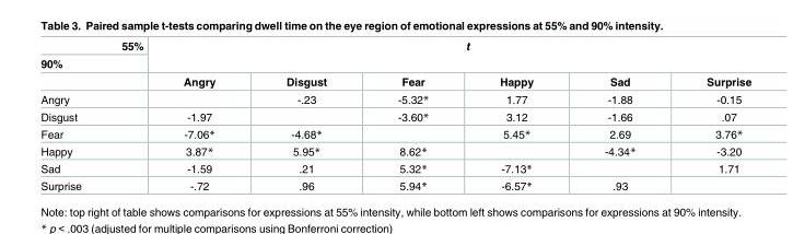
<table><thead><tr><td rowspan="3">55% 90%</td><td rowspan="2" colspan="6">t</td></tr><tr></tr><tr><td>Angry</td><td>Disgust</td><td>Fear</td><td>Happy</td><td>Sad</td><td>Surprise</td></tr></thead><tbody><tr><td>Angry</td><td></td><td>-.23</td><td>-5.32*</td><td>1.77</td><td>-1.88</td><td>-0.15</td></tr><tr><td>Disgust</td><td>-1.97</td><td></td><td>-3.60*</td><td>3.12</td><td>-1.66</td><td>.07</td></tr><tr><td>Fear</td><td>-7.06*</td><td>-4.68*</td><td></td><td>5.45*</td><td>2.69</td><td>3.76*</td></tr><tr><td>Happy</td><td>3.87*</td><td>5.95*</td><td>8.62*</td><td></td><td>-4.34*</td><td>-3.20</td></tr><tr><td>Sad</td><td>-1.59</td><td>.21</td><td>5.32*</td><td>-7.13*</td><td></td><td>1.71</td></tr><tr><td>Surprise</td><td>-.72</td><td>.96</td><td>5.94*</td><td>-6.57*</td><td>.93</td><td></td></tr></tbody></table>